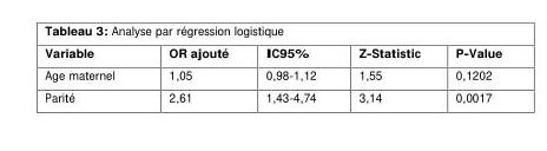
<table><thead><tr><td>Variable</td><td>OR ajouté</td><td>IC95%</td><td>Z-Statistic</td><td>P-Value</td></tr></thead><tbody><tr><td>Age maternel</td><td>1,05</td><td>0,98-1,12</td><td>1,55</td><td>0,1202</td></tr><tr><td>Parité</td><td>2,61</td><td>1,43-4,74</td><td>3,14</td><td>0,0017</td></tr></tbody></table>